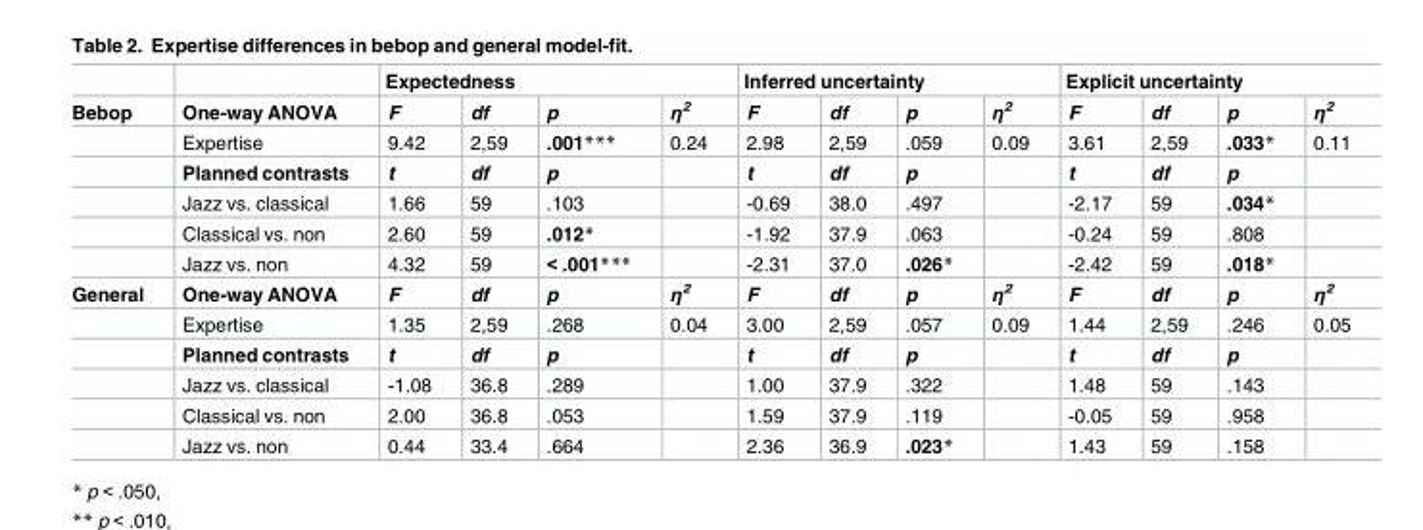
<table><thead><tr><td rowspan="2">Bebop</td><td rowspan="2">One-way ANOVA</td><td colspan="4">Expectedness</td><td colspan="4">Inferred uncertainty</td><td colspan="4">Explicit uncertainty</td></tr><tr><td>F</td><td>df</td><td>p</td><td>η<sup>2</sup></td><td>F</td><td>df</td><td>p</td><td>η<sup>2</sup></td><td>F</td><td>df</td><td>p</td><td>η<sup>2</sup></td></tr></thead><tbody><tr><td></td><td>Expertise</td><td>9.42</td><td>2,59</td><td>.001***</td><td>0.24</td><td>2.98</td><td>2,59</td><td>.059</td><td>0.09</td><td>3.61</td><td>2,59</td><td>.033*</td><td>0.11</td></tr><tr><td></td><td>Planned contrasts</td><td>t</td><td>df</td><td>p</td><td></td><td>t</td><td>df</td><td>p</td><td></td><td>t</td><td>df</td><td>p</td><td></td></tr><tr><td></td><td>Jazz vs. classical</td><td>1.66</td><td>59</td><td>.103</td><td></td><td>-0.69</td><td>38.0</td><td>.497</td><td></td><td>-2.17</td><td>59</td><td>.034*</td><td></td></tr><tr><td></td><td>Classical vs. non</td><td>2.60</td><td>59</td><td>.012*</td><td></td><td>-1.92</td><td>37.9</td><td>.063</td><td></td><td>-0.24</td><td>59</td><td>.808</td><td></td></tr><tr><td></td><td>Jazz vs. non</td><td>4.32</td><td>59</td><td>&lt; .001***</td><td></td><td>-2.31</td><td>37.0</td><td>.026*</td><td></td><td>-2.42</td><td>59</td><td>.018*</td><td></td></tr><tr><td rowspan="6">General</td><td>One-way ANOVA</td><td>F</td><td>df</td><td>p</td><td>η<sup>2</sup></td><td>F</td><td>df</td><td>p</td><td>η<sup>2</sup></td><td>F</td><td>df</td><td>p</td><td>η<sup>2</sup></td></tr><tr><td>Expertise</td><td>1.35</td><td>2,59</td><td>.268</td><td>0.04</td><td>3.00</td><td>2,59</td><td>.057</td><td>0.09</td><td>1.44</td><td>2,59</td><td>.246</td><td>0.05</td></tr><tr><td>Planned contrasts</td><td>t</td><td>df</td><td>p</td><td></td><td>t</td><td>df</td><td>p</td><td></td><td>t</td><td>df</td><td>p</td><td></td></tr><tr><td>Jazz vs. classical</td><td>-1.08</td><td>36.8</td><td>.289</td><td></td><td>1.00</td><td>37.9</td><td>.322</td><td></td><td>1.48</td><td>59</td><td>.143</td><td></td></tr><tr><td>Classical vs. non</td><td>2.00</td><td>36.8</td><td>.053</td><td></td><td>1.59</td><td>37.9</td><td>.119</td><td></td><td>-0.05</td><td>59</td><td>.958</td><td></td></tr><tr><td>Jazz vs. non</td><td>0.44</td><td>33.4</td><td>.664</td><td></td><td>2.36</td><td>36.9</td><td>.023*</td><td></td><td>1.43</td><td>59</td><td>.158</td><td></td></tr></tbody></table>